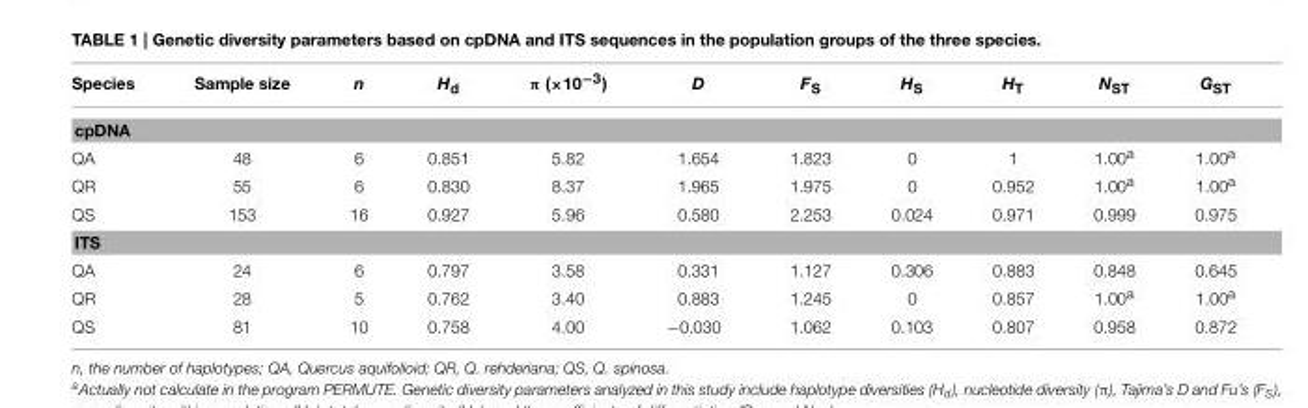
<table><thead><tr><td>Species</td><td>Sample size</td><td>n</td><td>H<sub>d</sub></td><td>π (×10<sup>−3</sup>)</td><td>D</td><td>F<sub>S</sub></td><td>H<sub>S</sub></td><td>H<sub>T</sub></td><td>N<sub>ST</sub></td><td>G<sub>ST</sub></td></tr></thead><tbody><tr><td colspan="11">cpDNA</td></tr><tr><td>QA</td><td>48</td><td>6</td><td>0.851</td><td>5.82</td><td>1.654</td><td>1.823</td><td>0</td><td>1</td><td>1.00<sup>a</sup></td><td>1.00<sup>a</sup></td></tr><tr><td>QR</td><td>55</td><td>6</td><td>0.830</td><td>8.37</td><td>1.965</td><td>1.975</td><td>0</td><td>0.952</td><td>1.00<sup>a</sup></td><td>1.00<sup>a</sup></td></tr><tr><td>QS</td><td>153</td><td>16</td><td>0.927</td><td>5.96</td><td>0.580</td><td>2.253</td><td>0.024</td><td>0.971</td><td>0.999</td><td>0.975</td></tr><tr><td colspan="11">ITS</td></tr><tr><td>QA</td><td>24</td><td>6</td><td>0.797</td><td>3.58</td><td>0.331</td><td>1.127</td><td>0.306</td><td>0.883</td><td>0.848</td><td>0.645</td></tr><tr><td>QR</td><td>28</td><td>5</td><td>0.762</td><td>3.40</td><td>0.883</td><td>1.245</td><td>0</td><td>0.857</td><td>1.00<sup>a</sup></td><td>1.00<sup>a</sup></td></tr><tr><td>QS</td><td>81</td><td>10</td><td>0.758</td><td>4.00</td><td>−0.030</td><td>1.062</td><td>0.103</td><td>0.807</td><td>0.958</td><td>0.872</td></tr></tbody></table>